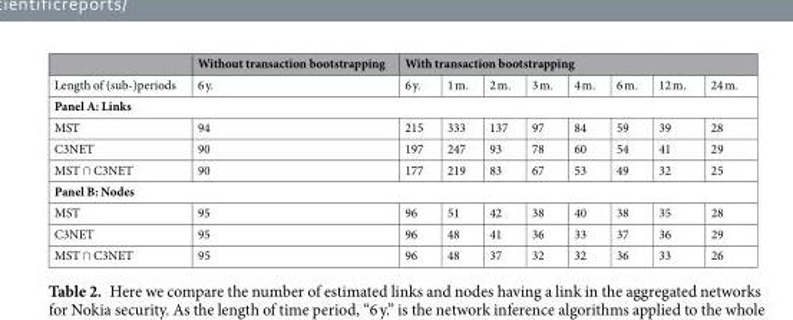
<table><thead><tr><td rowspan="2">Length of (sub-)periods</td><td rowspan="2">Without transaction bootstrapping 6 y.</td><td colspan="8">With transaction bootstrapping</td></tr><tr><td>6 y.</td><td>1 m.</td><td>2 m.</td><td>3 m.</td><td>4 m.</td><td>6 m.</td><td>12 m.</td><td>24 m.</td></tr></thead><tbody><tr><td colspan="10">Panel A: Links</td></tr><tr><td>MST</td><td>94</td><td>215</td><td>333</td><td>137</td><td>97</td><td>84</td><td>59</td><td>39</td><td>28</td></tr><tr><td>C3NET</td><td>90</td><td>197</td><td>247</td><td>93</td><td>78</td><td>60</td><td>54</td><td>41</td><td>29</td></tr><tr><td>MST ∩ C3NET</td><td>90</td><td>177</td><td>219</td><td>83</td><td>67</td><td>53</td><td>49</td><td>32</td><td>25</td></tr><tr><td colspan="10">Panel B: Nodes</td></tr><tr><td>MST</td><td>95</td><td>96</td><td>51</td><td>42</td><td>38</td><td>40</td><td>38</td><td>35</td><td>28</td></tr><tr><td>C3NET</td><td>95</td><td>96</td><td>48</td><td>41</td><td>36</td><td>33</td><td>37</td><td>36</td><td>29</td></tr><tr><td>MST ∩ C3NET</td><td>95</td><td>96</td><td>48</td><td>37</td><td>32</td><td>32</td><td>36</td><td>33</td><td>26</td></tr></tbody></table>